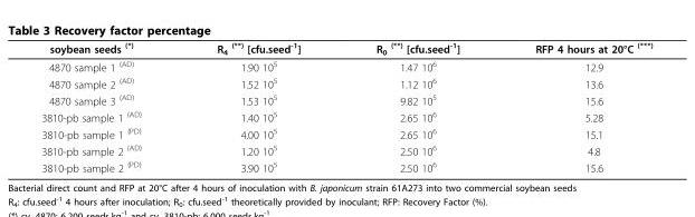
<table><thead><tr><td>soybean seeds <sup>(*)</sup></td><td>R<sub>4</sub> <sup>(**)</sup> [cfu.seed<sup>-1</sup>]</td><td>R<sub>0</sub> <sup>(**)</sup> [cfu.seed<sup>-1</sup>]</td><td>RFP 4 hours at 20°C <sup>(***)</sup></td></tr></thead><tbody><tr><td>4870 sample 1 <sup>(AD)</sup></td><td>1.90 10<sup>5</sup></td><td>1.47 10<sup>6</sup></td><td>12.9</td></tr><tr><td>4870 sample 2 <sup>(AD)</sup></td><td>1.52 10<sup>5</sup></td><td>1.12 10<sup>6</sup></td><td>13.6</td></tr><tr><td>4870 sample 3 <sup>(AD)</sup></td><td>1.53 10<sup>5</sup></td><td>9.82 10<sup>5</sup></td><td>15.6</td></tr><tr><td>3810-pb sample 1 <sup>(AD)</sup></td><td>1.40 10<sup>5</sup></td><td>2.65 10<sup>6</sup></td><td>5.28</td></tr><tr><td>3810-pb sample 1 <sup>(PD)</sup></td><td>4.00 10<sup>5</sup></td><td>2.65 10<sup>6</sup></td><td>15.1</td></tr><tr><td>3810-pb sample 2 <sup>(AD)</sup></td><td>1.20 10<sup>5</sup></td><td>2.50 10<sup>6</sup></td><td>4.8</td></tr><tr><td>3810-pb sample 2 <sup>(PD)</sup></td><td>3.90 10<sup>5</sup></td><td>2.50 10<sup>6</sup></td><td>15.6</td></tr></tbody></table>